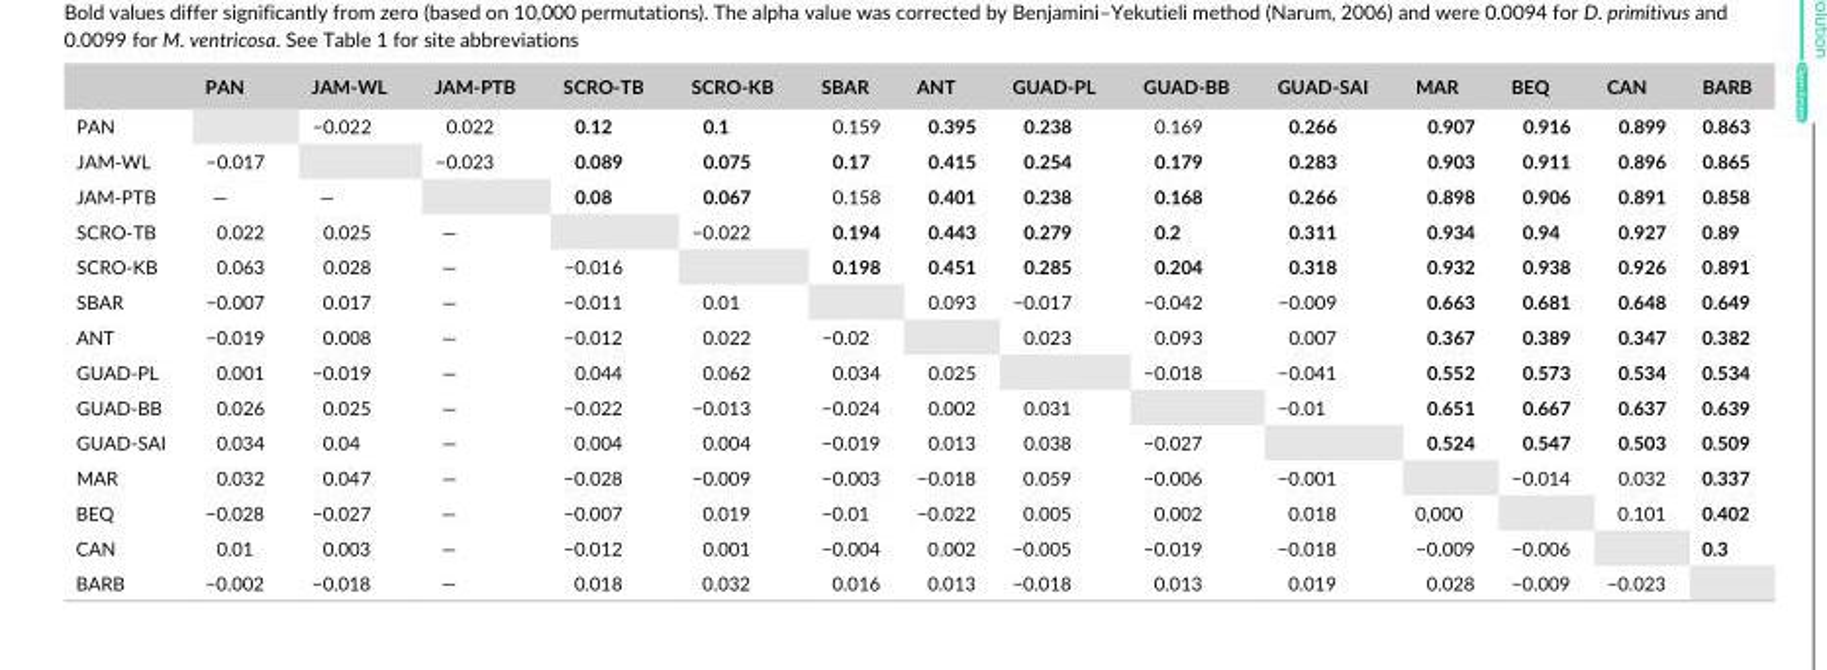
<table><thead><tr><td></td><td>PAN</td><td>JAM- WL</td><td>JAM- PTB</td><td>SCRO- TB</td><td>SCRO- KB</td><td>SBAR</td><td>ANT</td><td>GUAD- PL</td><td>GUAD- BB</td><td>GUAD- SAI</td><td>MAR</td><td>BEQ</td><td>CAN</td><td>BARB</td></tr></thead><tbody><tr><td>PAN</td><td></td><td>−0.022</td><td>0.022</td><td>0.12</td><td>0.1</td><td>0.159</td><td>0.395</td><td>0.238</td><td>0.169</td><td>0.266</td><td>0.907</td><td>0.916</td><td>0.899</td><td>0.863</td></tr><tr><td>JAM- WL</td><td>−0.017</td><td></td><td>−0.023</td><td>0.089</td><td>0.075</td><td>0.17</td><td>0.415</td><td>0.254</td><td>0.179</td><td>0.283</td><td>0.903</td><td>0.911</td><td>0.896</td><td>0.865</td></tr><tr><td>JAM- PTB</td><td>—</td><td>—</td><td></td><td>0.08</td><td>0.067</td><td>0.158</td><td>0.401</td><td>0.238</td><td>0.168</td><td>0.266</td><td>0.898</td><td>0.906</td><td>0.891</td><td>0.858</td></tr><tr><td>SCRO- TB</td><td>0.022</td><td>0.025</td><td>—</td><td></td><td>−0.022</td><td>0.194</td><td>0.443</td><td>0.279</td><td>0.2</td><td>0.311</td><td>0.934</td><td>0.94</td><td>0.927</td><td>0.89</td></tr><tr><td>SCRO- KB</td><td>0.063</td><td>0.028</td><td>—</td><td>−0.016</td><td></td><td>0.198</td><td>0.451</td><td>0.285</td><td>0.204</td><td>0.318</td><td>0.932</td><td>0.938</td><td>0.926</td><td>0.891</td></tr><tr><td>SBAR</td><td>−0.007</td><td>0.017</td><td>—</td><td>−0.011</td><td>0.01</td><td></td><td>0.093</td><td>−0.017</td><td>−0.042</td><td>−0.009</td><td>0.663</td><td>0.681</td><td>0.648</td><td>0.649</td></tr><tr><td>ANT</td><td>−0.019</td><td>0.008</td><td>—</td><td>−0.012</td><td>0.022</td><td>−0.02</td><td></td><td>0.023</td><td>0.093</td><td>0.007</td><td>0.367</td><td>0.389</td><td>0.347</td><td>0.382</td></tr><tr><td>GUAD- PL</td><td>0.001</td><td>−0.019</td><td>—</td><td>0.044</td><td>0.062</td><td>0.034</td><td>0.025</td><td></td><td>−0.018</td><td>−0.041</td><td>0.552</td><td>0.573</td><td>0.534</td><td>0.534</td></tr><tr><td>GUAD- BB</td><td>0.026</td><td>0.025</td><td>—</td><td>−0.022</td><td>−0.013</td><td>−0.024</td><td>0.002</td><td>0.031</td><td></td><td>−0.01</td><td>0.651</td><td>0.667</td><td>0.637</td><td>0.639</td></tr><tr><td>GUAD- SAI</td><td>0.034</td><td>0.04</td><td>—</td><td>0.004</td><td>0.004</td><td>−0.019</td><td>0.013</td><td>0.038</td><td>−0.027</td><td></td><td>0.524</td><td>0.547</td><td>0.503</td><td>0.509</td></tr><tr><td>MAR</td><td>0.032</td><td>0.047</td><td>—</td><td>−0.028</td><td>−0.009</td><td>−0.003</td><td>−0.018</td><td>0.059</td><td>−0.006</td><td>−0.001</td><td></td><td>−0.014</td><td>0.032</td><td>0.337</td></tr><tr><td>BEQ</td><td>−0.028</td><td>−0.027</td><td>—</td><td>−0.007</td><td>0.019</td><td>−0.01</td><td>−0.022</td><td>0.005</td><td>0.002</td><td>0.018</td><td>0,000</td><td></td><td>0.101</td><td>0.402</td></tr><tr><td>CAN</td><td>0.01</td><td>0.003</td><td>—</td><td>−0.012</td><td>0.001</td><td>−0.004</td><td>0.002</td><td>−0.005</td><td>−0.019</td><td>−0.018</td><td>−0.009</td><td>−0.006</td><td></td><td>0.3</td></tr><tr><td>BARB</td><td>−0.002</td><td>−0.018</td><td>—</td><td>0.018</td><td>0.032</td><td>0.016</td><td>0.013</td><td>−0.018</td><td>0.013</td><td>0.019</td><td>0.028</td><td>−0.009</td><td>−0.023</td><td></td></tr></tbody></table>